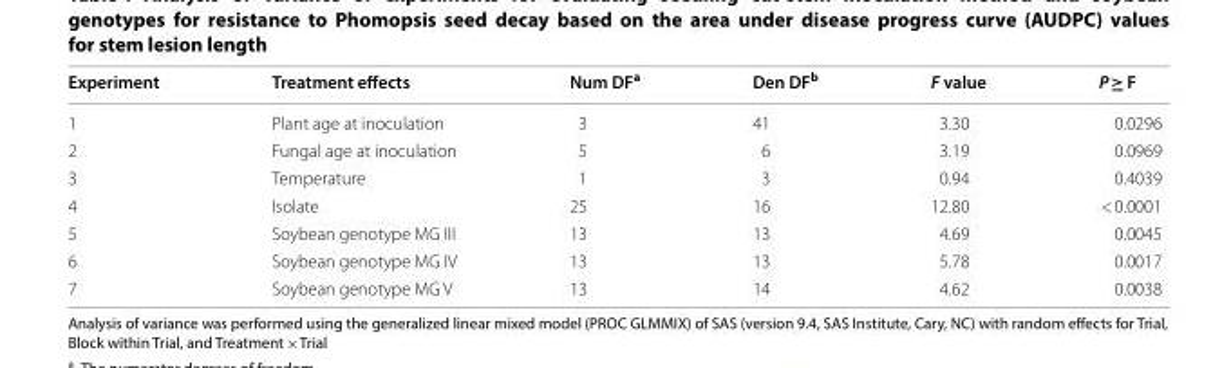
<table><thead><tr><td>Experiment</td><td>Treatment effects</td><td>Num DF<sup>a</sup></td><td>Den DF<sup>b</sup></td><td>F value</td><td>P ≥ F</td></tr></thead><tbody><tr><td>1</td><td>Plant age at inoculation</td><td>3</td><td>41</td><td>3.30</td><td>0.0296</td></tr><tr><td>2</td><td>Fungal age at inoculation</td><td>5</td><td>6</td><td>3.19</td><td>0.0969</td></tr><tr><td>3</td><td>Temperature</td><td>1</td><td>3</td><td>0.94</td><td>0.4039</td></tr><tr><td>4</td><td>Isolate</td><td>25</td><td>16</td><td>12.80</td><td>&lt; 0.0001</td></tr><tr><td>5</td><td>Soybean genotype MG III</td><td>13</td><td>13</td><td>4.69</td><td>0.0045</td></tr><tr><td>6</td><td>Soybean genotype MG IV</td><td>13</td><td>13</td><td>5.78</td><td>0.0017</td></tr><tr><td>7</td><td>Soybean genotype MG V</td><td>13</td><td>14</td><td>4.62</td><td>0.0038</td></tr></tbody></table>